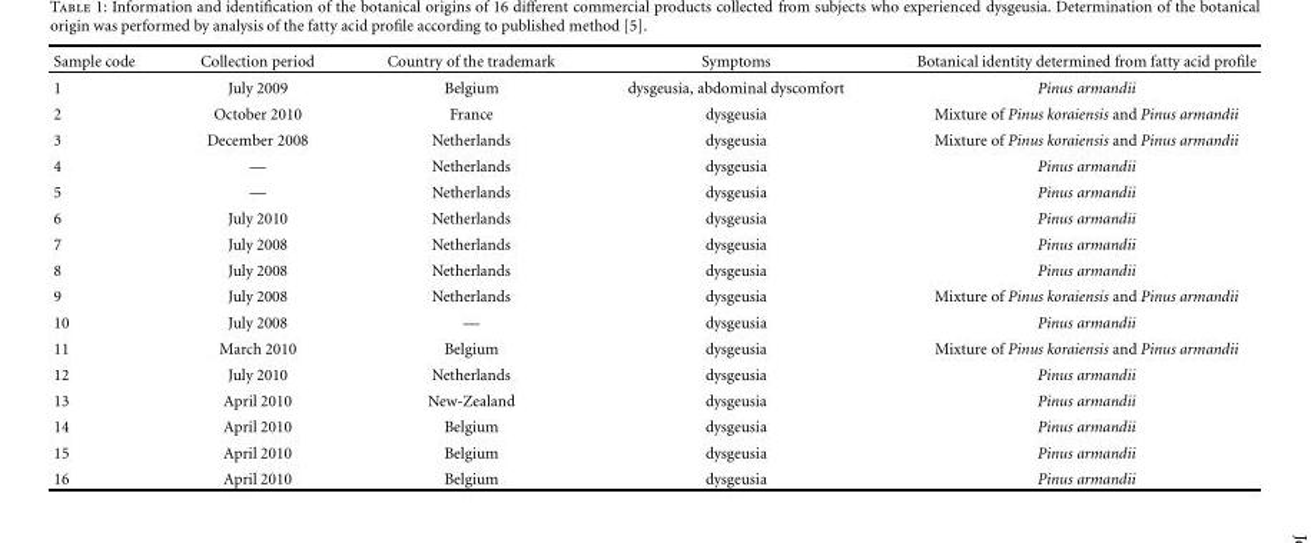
<table><thead><tr><td>Sample code</td><td>Collection period</td><td>Country of the trademark</td><td>Symptoms</td><td>Botanical identity determined from fatty acid profile</td></tr></thead><tbody><tr><td>1</td><td>July 2009</td><td>Belgium</td><td>dysgeusia, abdominal dyscomfort</td><td>Pinus armandii</td></tr><tr><td>2</td><td>October 2010</td><td>France</td><td>dysgeusia</td><td>Mixture of Pinus koraiensis and Pinus armandii</td></tr><tr><td>3</td><td>December 2008</td><td>Netherlands</td><td>dysgeusia</td><td>Mixture of Pinus koraiensis and Pinus armandii</td></tr><tr><td>4</td><td>—</td><td>Netherlands</td><td>dysgeusia</td><td>Pinus armandii</td></tr><tr><td>5</td><td>—</td><td>Netherlands</td><td>dysgeusia</td><td>Pinus armandii</td></tr><tr><td>6</td><td>July 2010</td><td>Netherlands</td><td>dysgeusia</td><td>Pinus armandii</td></tr><tr><td>7</td><td>July 2008</td><td>Netherlands</td><td>dysgeusia</td><td>Pinus armandii</td></tr><tr><td>8</td><td>July 2008</td><td>Netherlands</td><td>dysgeusia</td><td>Pinus armandii</td></tr><tr><td>9</td><td>July 2008</td><td>Netherlands</td><td>dysgeusia</td><td>Mixture of Pinus koraiensis and Pinus armandii</td></tr><tr><td>10</td><td>July 2008</td><td>—</td><td>dysgeusia</td><td>Pinus armandii</td></tr><tr><td>11</td><td>March 2010</td><td>Belgium</td><td>dysgeusia</td><td>Mixture of Pinus koraiensis and Pinus armandii</td></tr><tr><td>12</td><td>July 2010</td><td>Netherlands</td><td>dysgeusia</td><td>Pinus armandii</td></tr><tr><td>13</td><td>April 2010</td><td>New-Zealand</td><td>dysgeusia</td><td>Pinus armandii</td></tr><tr><td>14</td><td>April 2010</td><td>Belgium</td><td>dysgeusia</td><td>Pinus armandii</td></tr><tr><td>15</td><td>April 2010</td><td>Belgium</td><td>dysgeusia</td><td>Pinus armandii</td></tr><tr><td>16</td><td>April 2010</td><td>Belgium</td><td>dysgeusia</td><td>Pinus armandii</td></tr></tbody></table>